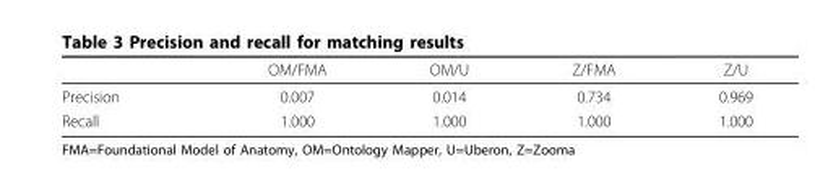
<table><thead><tr><td></td><td>OM/FMA</td><td>OM/U</td><td>Z/FMA</td><td>Z/U</td></tr></thead><tbody><tr><td>Precision</td><td>0.007</td><td>0.014</td><td>0.734</td><td>0.969</td></tr><tr><td>Recall</td><td>1.000</td><td>1.000</td><td>1.000</td><td>1.000</td></tr></tbody></table>